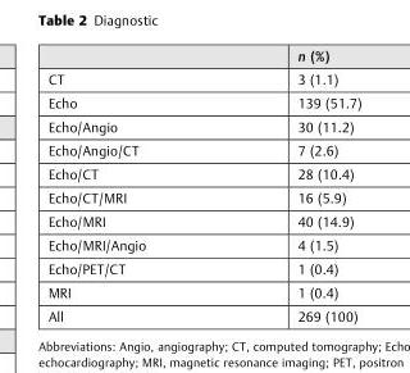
<table><thead><tr><td></td><td>n (%)</td></tr></thead><tbody><tr><td>CT</td><td>3 (1.1)</td></tr><tr><td>Echo</td><td>139 (51.7)</td></tr><tr><td>Echo/Angio</td><td>30 (11.2)</td></tr><tr><td>Echo/Angio/CT</td><td>7 (2.6)</td></tr><tr><td>Echo/CT</td><td>28 (10.4)</td></tr><tr><td>Echo/CT/MRI</td><td>16 (5.9)</td></tr><tr><td>Echo/MRI</td><td>40 (14.9)</td></tr><tr><td>Echo/MRI/Angio</td><td>4 (1.5)</td></tr><tr><td>Echo/PET/CT</td><td>1 (0.4)</td></tr><tr><td>MRI</td><td>1 (0.4)</td></tr><tr><td>All</td><td>269 (100)</td></tr></tbody></table>